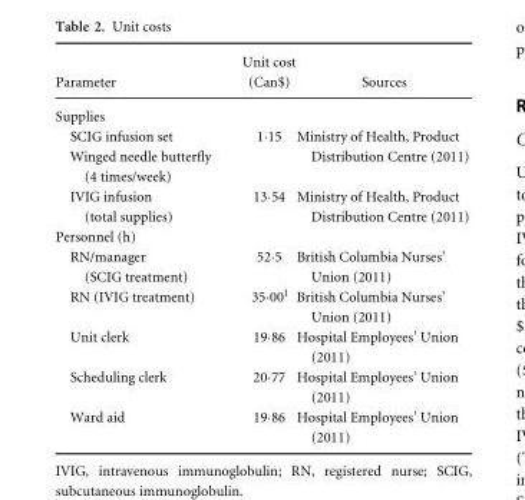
<table><thead><tr><td>Parameter</td><td>Unit cost (Can$)</td><td>Sources</td></tr></thead><tbody><tr><td colspan="3">Supplies</td></tr><tr><td>SCIG infusion set Winged needle butterfly (4 times/week)</td><td>1·15</td><td>Ministry of Health, Product Distribution Centre (2011)</td></tr><tr><td>IVIG infusion (total supplies)</td><td>13·54</td><td>Ministry of Health, Product Distribution Centre (2011)</td></tr><tr><td colspan="3">Personnel (h)</td></tr><tr><td>RN/manager (SCIG treatment)</td><td>52·5</td><td>British Columbia Nurses’ Union (2011)</td></tr><tr><td>RN (IVIG treatment)</td><td>35·001</td><td>British Columbia Nurses’ Union (2011)</td></tr><tr><td>Unit clerk</td><td>19·86</td><td>Hospital Employees’ Union (2011)</td></tr><tr><td>Scheduling clerk</td><td>20·77</td><td>Hospital Employees’ Union (2011)</td></tr><tr><td>Ward aid</td><td>19·86</td><td>Hospital Employees’ Union (2011)</td></tr></tbody></table>